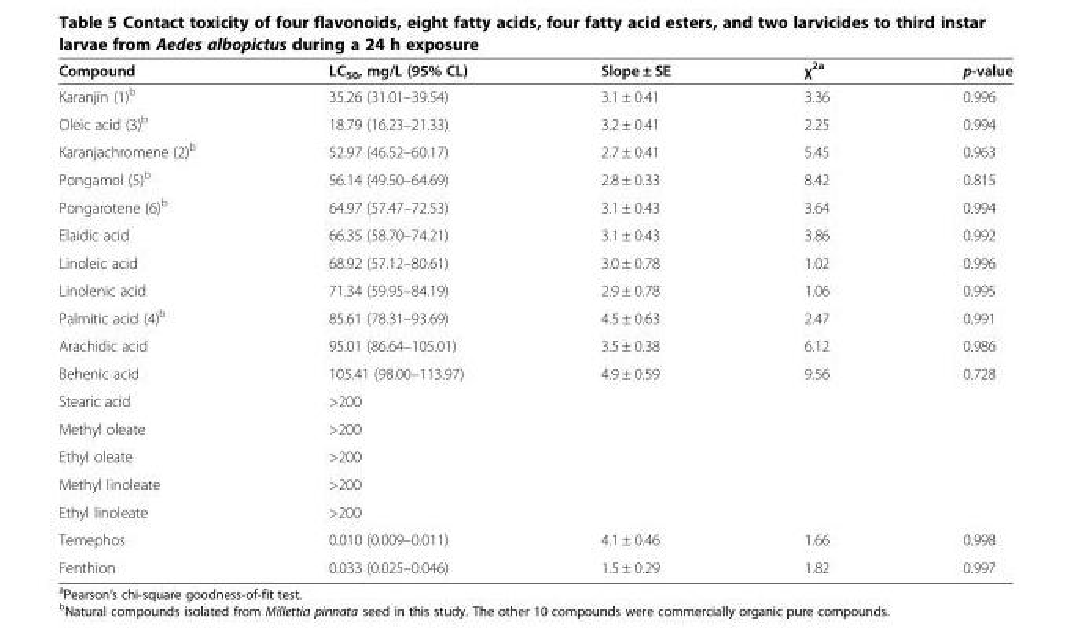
<table><thead><tr><td>Compound</td><td>LC<sub>50</sub>, mg/L (95% CL)</td><td>Slope ± SE</td><td>χ<sup>2a</sup></td><td>p-value</td></tr></thead><tbody><tr><td>Karanjin (1)<sup>b</sup></td><td>35.26 (31.01–39.54)</td><td>3.1 ± 0.41</td><td>3.36</td><td>0.996</td></tr><tr><td>Oleic acid (3)<sup>b</sup></td><td>18.79 (16.23–21.33)</td><td>3.2 ± 0.41</td><td>2.25</td><td>0.994</td></tr><tr><td>Karanjachromene (2)<sup>b</sup></td><td>52.97 (46.52–60.17)</td><td>2.7 ± 0.41</td><td>5.45</td><td>0.963</td></tr><tr><td>Pongamol (5)<sup>b</sup></td><td>56.14 (49.50–64.69)</td><td>2.8 ± 0.33</td><td>8.42</td><td>0.815</td></tr><tr><td>Pongarotene (6)<sup>b</sup></td><td>64.97 (57.47–72.53)</td><td>3.1 ± 0.43</td><td>3.64</td><td>0.994</td></tr><tr><td>Elaidic acid</td><td>66.35 (58.70–74.21)</td><td>3.1 ± 0.43</td><td>3.86</td><td>0.992</td></tr><tr><td>Linoleic acid</td><td>68.92 (57.12–80.61)</td><td>3.0 ± 0.78</td><td>1.02</td><td>0.996</td></tr><tr><td>Linolenic acid</td><td>71.34 (59.95–84.19)</td><td>2.9 ± 0.78</td><td>1.06</td><td>0.995</td></tr><tr><td>Palmitic acid (4)<sup>b</sup></td><td>85.61 (78.31–93.69)</td><td>4.5 ± 0.63</td><td>2.47</td><td>0.991</td></tr><tr><td>Arachidic acid</td><td>95.01 (86.64–105.01)</td><td>3.5 ± 0.38</td><td>6.12</td><td>0.986</td></tr><tr><td>Behenic acid</td><td>105.41 (98.00–113.97)</td><td>4.9 ± 0.59</td><td>9.56</td><td>0.728</td></tr><tr><td>Stearic acid</td><td>&gt;200</td><td></td><td></td><td></td></tr><tr><td>Methyl oleate</td><td>&gt;200</td><td></td><td></td><td></td></tr><tr><td>Ethyl oleate</td><td>&gt;200</td><td></td><td></td><td></td></tr><tr><td>Methyl linoleate</td><td>&gt;200</td><td></td><td></td><td></td></tr><tr><td>Ethyl linoleate</td><td>&gt;200</td><td></td><td></td><td></td></tr><tr><td>Temephos</td><td>0.010 (0.009–0.011)</td><td>4.1 ± 0.46</td><td>1.66</td><td>0.998</td></tr><tr><td>Fenthion</td><td>0.033 (0.025–0.046)</td><td>1.5 ± 0.29</td><td>1.82</td><td>0.997</td></tr></tbody></table>